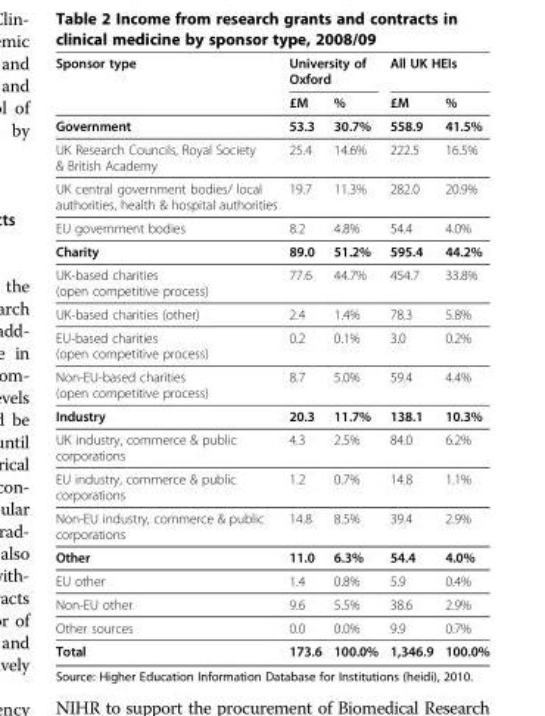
<table><thead><tr><td rowspan="2">Sponsor type</td><td colspan="2">University of Oxford</td><td colspan="2">All UK HEIs</td></tr><tr><td>£M</td><td>%</td><td>£M</td><td>%</td></tr></thead><tbody><tr><td>Government</td><td>53.3</td><td>30.7%</td><td>558.9</td><td>41.5%</td></tr><tr><td>UK Research Councils, Royal Society &amp; British Academy</td><td>25.4</td><td>14.6%</td><td>222.5</td><td>16.5%</td></tr><tr><td>UK central government bodies/ local authorities, health &amp; hospital authorities</td><td>19.7</td><td>11.3%</td><td>282.0</td><td>20.9%</td></tr><tr><td>EU government bodies</td><td>8.2</td><td>4.8%</td><td>54.4</td><td>4.0%</td></tr><tr><td>Charity</td><td>89.0</td><td>51.2%</td><td>595.4</td><td>44.2%</td></tr><tr><td>UK-based charities (open competitive process)</td><td>77.6</td><td>44.7%</td><td>454.7</td><td>33.8%</td></tr><tr><td>UK-based charities (other)</td><td>2.4</td><td>1.4%</td><td>78.3</td><td>5.8%</td></tr><tr><td>EU-based charities (open competitive process)</td><td>0.2</td><td>0.1%</td><td>3.0</td><td>0.2%</td></tr><tr><td>Non-EU-based charities (open competitive process)</td><td>8.7</td><td>5.0%</td><td>59.4</td><td>4.4%</td></tr><tr><td>Industry</td><td>20.3</td><td>11.7%</td><td>138.1</td><td>10.3%</td></tr><tr><td>UK industry, commerce &amp; public corporations</td><td>4.3</td><td>2.5%</td><td>84.0</td><td>6.2%</td></tr><tr><td>EU industry, commerce &amp; public corporations</td><td>1.2</td><td>0.7%</td><td>14.8</td><td>1.1%</td></tr><tr><td>Non-EU industry, commerce &amp; public corporations</td><td>14.8</td><td>8.5%</td><td>39.4</td><td>2.9%</td></tr><tr><td>Other</td><td>11.0</td><td>6.3%</td><td>54.4</td><td>4.0%</td></tr><tr><td>EU other</td><td>1.4</td><td>0.8%</td><td>5.9</td><td>0.4%</td></tr><tr><td>Non-EU other</td><td>9.6</td><td>5.5%</td><td>38.6</td><td>2.9%</td></tr><tr><td>Other sources</td><td>0.0</td><td>0.0%</td><td>9.9</td><td>0.7%</td></tr><tr><td>Total</td><td>173.6</td><td>100.0%</td><td>1,346.9</td><td>100.0%</td></tr></tbody></table>